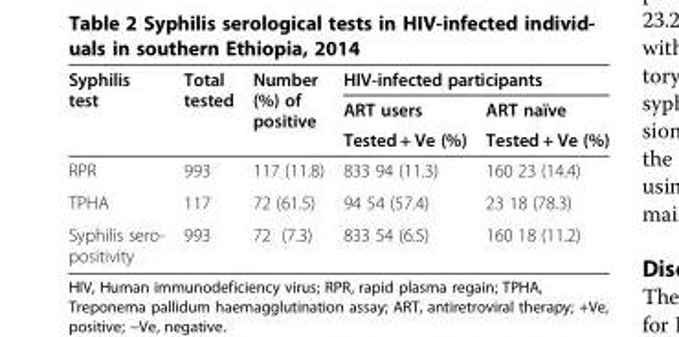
<table><thead><tr><td rowspan="3">Syphilis test</td><td rowspan="3">Total tested</td><td rowspan="3">Number (%) of positive</td><td colspan="2">HIV-infected participants</td></tr><tr><td rowspan="2">ART users Tested + Ve (%)</td><td rowspan="2">ART naïve Tested + Ve (%)</td></tr><tr></tr></thead><tbody><tr><td>RPR</td><td>993</td><td>117 (11.8)</td><td>833 94 (11.3)</td><td>160 23 (14.4)</td></tr><tr><td>TPHA</td><td>117</td><td>72 (61.5)</td><td>94 54 (57.4)</td><td>23 18 (78.3)</td></tr><tr><td>Syphilis sero- positivity</td><td>993</td><td>72 (7.3)</td><td>833 54 (6.5)</td><td>160 18 (11.2)</td></tr></tbody></table>